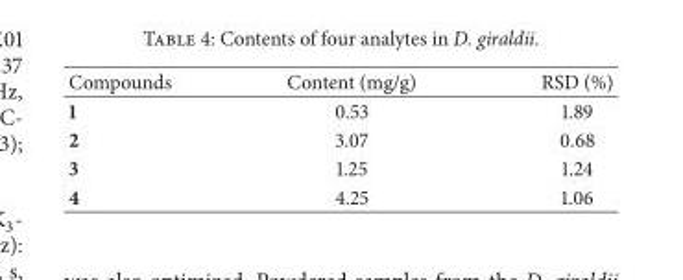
<table><thead><tr><td>Compounds</td><td>Content (mg/g)</td><td>RSD (%)</td></tr></thead><tbody><tr><td>1</td><td>0.53</td><td>1.89</td></tr><tr><td>2</td><td>3.07</td><td>0.68</td></tr><tr><td>3</td><td>1.25</td><td>1.24</td></tr><tr><td>4</td><td>4.25</td><td>1.06</td></tr></tbody></table>